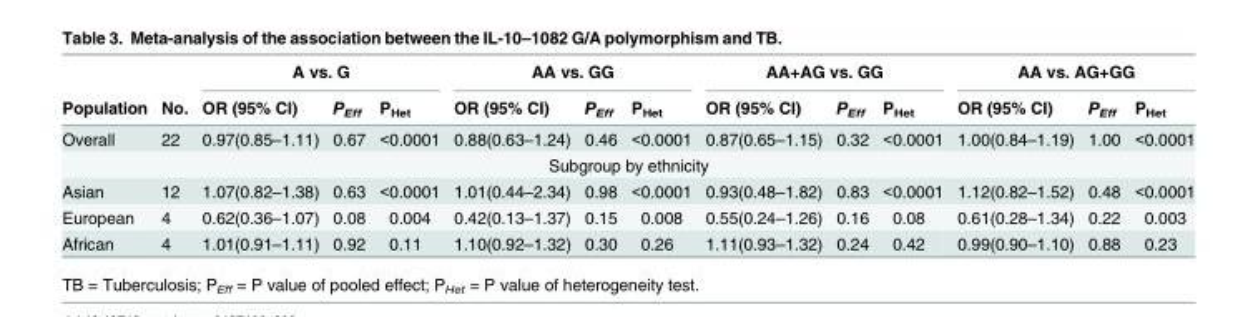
<table><thead><tr><td rowspan="2">Population</td><td rowspan="2">No.</td><td colspan="3">A vs. G</td><td colspan="3">AA vs. GG</td><td colspan="3">AA+AG vs. GG</td><td colspan="3">AA vs. AG+GG</td></tr><tr><td>OR (95% CI)</td><td>P<sub>Eff</sub></td><td>P<sub>Het</sub></td><td>OR (95% CI)</td><td>P<sub>Eff</sub></td><td>P<sub>Het</sub></td><td>OR (95% CI)</td><td>P<sub>Eff</sub></td><td>P<sub>Het</sub></td><td>OR (95% CI)</td><td>P<sub>Eff</sub></td><td>P<sub>Het</sub></td></tr></thead><tbody><tr><td>Overall</td><td>22</td><td>0.97(0.85–1.11)</td><td>0.67</td><td>&lt;0.0001</td><td>0.88(0.63–1.24)</td><td>0.46</td><td>&lt;0.0001</td><td>0.87(0.65–1.15)</td><td>0.32</td><td>&lt;0.0001</td><td>1.00(0.84–1.19)</td><td>1.00</td><td>&lt;0.0001</td></tr><tr><td colspan="14">Subgroup by ethnicity</td></tr><tr><td>Asian</td><td>12</td><td>1.07(0.82–1.38)</td><td>0.63</td><td>&lt;0.0001</td><td>1.01(0.44–2.34)</td><td>0.98</td><td>&lt;0.0001</td><td>0.93(0.48–1.82)</td><td>0.83</td><td>&lt;0.0001</td><td>1.12(0.82–1.52)</td><td>0.48</td><td>&lt;0.0001</td></tr><tr><td>European</td><td>4</td><td>0.62(0.36–1.07)</td><td>0.08</td><td>0.004</td><td>0.42(0.13–1.37)</td><td>0.15</td><td>0.008</td><td>0.55(0.24–1.26)</td><td>0.16</td><td>0.08</td><td>0.61(0.28–1.34)</td><td>0.22</td><td>0.003</td></tr><tr><td>African</td><td>4</td><td>1.01(0.91–1.11)</td><td>0.92</td><td>0.11</td><td>1.10(0.92–1.32)</td><td>0.30</td><td>0.26</td><td>1.11(0.93–1.32)</td><td>0.24</td><td>0.42</td><td>0.99(0.90–1.10)</td><td>0.88</td><td>0.23</td></tr></tbody></table>